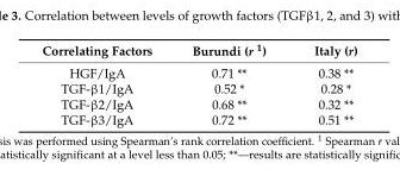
<table><thead><tr><td>Correlating Factors</td><td>Burundi (r <sup>1</sup>)</td><td>Italy (r)</td></tr></thead><tbody><tr><td>HGF/IgA</td><td>0.71 **</td><td>0.38 **</td></tr><tr><td>TGF-β1/IgA</td><td>0.52 *</td><td>0.28 *</td></tr><tr><td>TGF-β2/IgA</td><td>0.68 **</td><td>0.32 **</td></tr><tr><td>TGF-β3/IgA</td><td>0.72 **</td><td>0.51 **</td></tr></tbody></table>